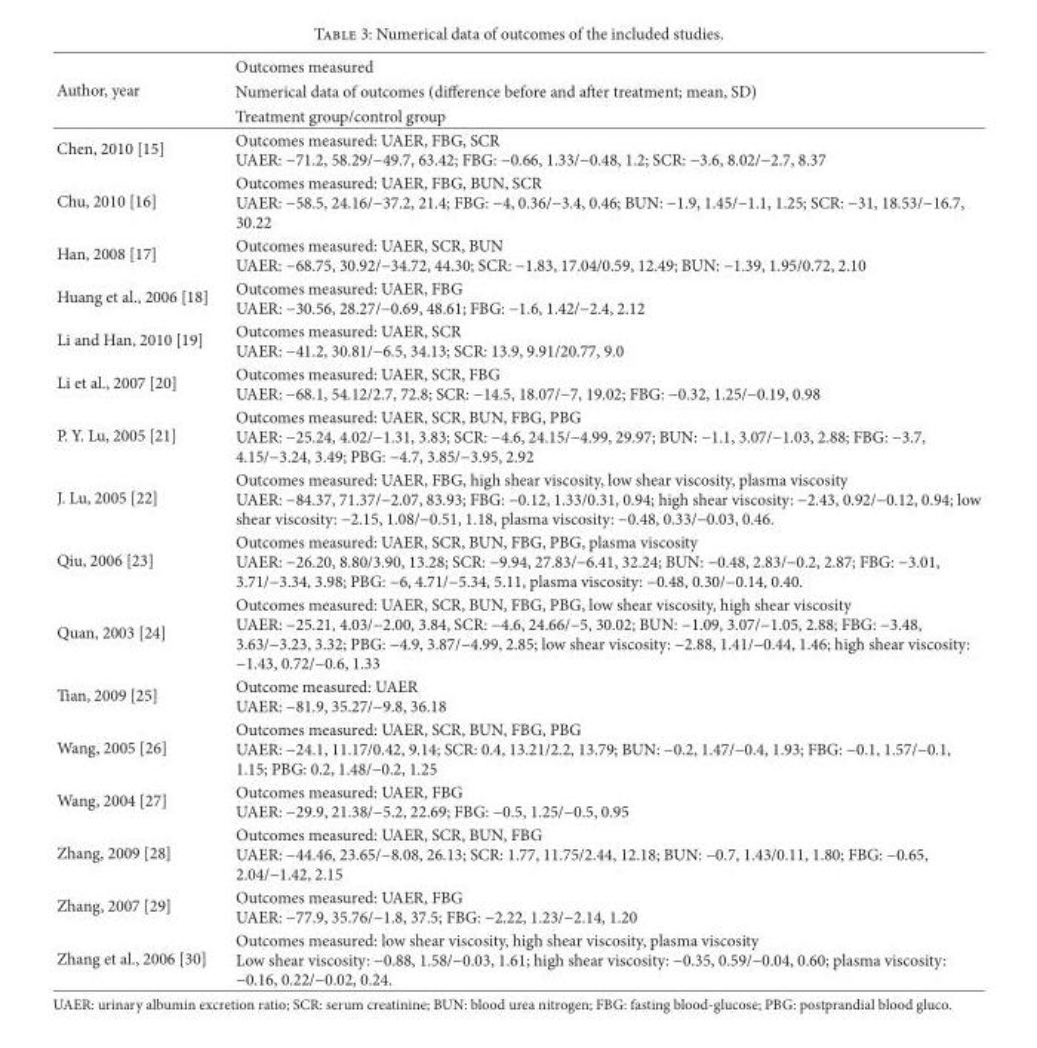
<table><thead><tr><td rowspan="3">Author, year</td><td rowspan="3">Outcomes measured Numerical data of outcomes (difference before and aer treatment; mean, SD) Treatment group/control group</td></tr><tr></tr><tr></tr></thead><tbody><tr><td>Chen, 2010 [15]</td><td>Outcomes measured: UAER, FBG, SCR UAER: −71.2, 58.29/−49.7, 63.42; FBG: −0.66, 1.33/−0.48, 1.2; SCR: −3.6, 8.02/−2.7, 8.37</td></tr><tr><td>Chu, 2010 [16]</td><td>Outcomes measured: UAER, FBG, BUN, SCR UAER: −58.5, 24.16/−37.2, 21.4; FBG: −4, 0.36/−3.4, 0.46; BUN: −1.9, 1.45/−1.1, 1.25; SCR: −31, 18.53/−16.7, 30.22</td></tr><tr><td>Han, 2008 [17]</td><td>Outcomes measured: UAER, SCR, BUN UAER: −68.75, 30.92/−34.72, 44.30; SCR: −1.83, 17.04/0.59, 12.49; BUN: −1.39, 1.95/0.72, 2.10</td></tr><tr><td>Huang et al., 2006 [18]</td><td>Outcomes measured: UAER, FBG UAER: −30.56, 28.27/−0.69, 48.61; FBG: −1.6, 1.42/−2.4, 2.12</td></tr><tr><td>Li and Han, 2010 [19]</td><td>Outcomes measured: UAER, SCR UAER: −41.2, 30.81/−6.5, 34.13; SCR: 13.9, 9.91/20.77, 9.0</td></tr><tr><td>Li et al., 2007 [20]</td><td>Outcomes measured: UAER, SCR, FBG UAER: −68.1, 54.12/2.7, 72.8; SCR: −14.5, 18.07/−7, 19.02; FBG: −0.32, 1.25/−0.19, 0.98</td></tr><tr><td>P. Y. Lu, 2005 [21]</td><td>Outcomes measured: UAER, SCR, BUN, FBG, PBG UAER: −25.24, 4.02/−1.31, 3.83; SCR: −4.6, 24.15/−4.99, 29.97; BUN: −1.1, 3.07/−1.03, 2.88; FBG: −3.7, 4.15/−3.24, 3.49; PBG: −4.7, 3.85/−3.95, 2.92</td></tr><tr><td>J. Lu, 2005 [22]</td><td>Outcomes measured: UAER, FBG, high shear viscosity, low shear viscosity, plasma viscosity UAER: −84.37, 71.37/−2.07, 83.93; FBG: −0.12, 1.33/0.31, 0.94; high shear viscosity: −2.43, 0.92/−0.12, 0.94; low shear viscosity: −2.15, 1.08/−0.51, 1.18, plasma viscosity: −0.48, 0.33/−0.03, 0.46.</td></tr><tr><td>Qiu, 2006 [23]</td><td>Outcomes measured: UAER, SCR, BUN, FBG, PBG, plasma viscosity UAER: −26.20, 8.80/3.90, 13.28; SCR: −9.94, 27.83/−6.41, 32.24; BUN: −0.48, 2.83/−0.2, 2.87; FBG: −3.01, 3.71/−3.34, 3.98; PBG: −6, 4.71/−5.34, 5.11, plasma viscosity: −0.48, 0.30/−0.14, 0.40.</td></tr><tr><td>Quan, 2003 [24]</td><td>Outcomes measured: UAER, SCR, BUN, FBG, PBG, low shear viscosity, high shear viscosity UAER: −25.21, 4.03/−2.00, 3.84, SCR: −4.6, 24.66/−5, 30.02; BUN: −1.09, 3.07/−1.05, 2.88; FBG: −3.48, 3.63/−3.23, 3.32; PBG: −4.9, 3.87/−4.99, 2.85; low shear viscosity: −2.88, 1.41/−0.44, 1.46; high shear viscosity: −1.43, 0.72/−0.6, 1.33</td></tr><tr><td>Tian, 2009 [25]</td><td>Outcome measured: UAER UAER: −81.9, 35.27/−9.8, 36.18</td></tr><tr><td>Wang, 2005 [26]</td><td>Outcomes measured: UAER, SCR, BUN, FBG, PBG UAER: −24.1, 11.17/0.42, 9.14; SCR: 0.4, 13.21/2.2, 13.79; BUN: −0.2, 1.47/−0.4, 1.93; FBG: −0.1, 1.57/−0.1, 1.15; PBG: 0.2, 1.48/−0.2, 1.25</td></tr><tr><td>Wang, 2004 [27]</td><td>Outcomes measured: UAER, FBG UAER: −29.9, 21.38/−5.2, 22.69; FBG: −0.5, 1.25/−0.5, 0.95</td></tr><tr><td>Zhang, 2009 [28]</td><td>Outcomes measured: UAER, SCR, BUN, FBG UAER: −44.46, 23.65/−8.08, 26.13; SCR: 1.77, 11.75/2.44, 12.18; BUN: −0.7, 1.43/0.11, 1.80; FBG: −0.65, 2.04/−1.42, 2.15</td></tr><tr><td>Zhang, 2007 [29]</td><td>Outcomes measured: UAER, FBG UAER: −77.9, 35.76/−1.8, 37.5; FBG: −2.22, 1.23/−2.14, 1.20</td></tr><tr><td>Zhang et al., 2006 [30]</td><td>Outcomes measured: low shear viscosity, high shear viscosity, plasma viscosity Low shear viscosity: −0.88, 1.58/−0.03, 1.61; high shear viscosity: −0.35, 0.59/−0.04, 0.60; plasma viscosity: −0.16, 0.22/−0.02, 0.24.</td></tr></tbody></table>